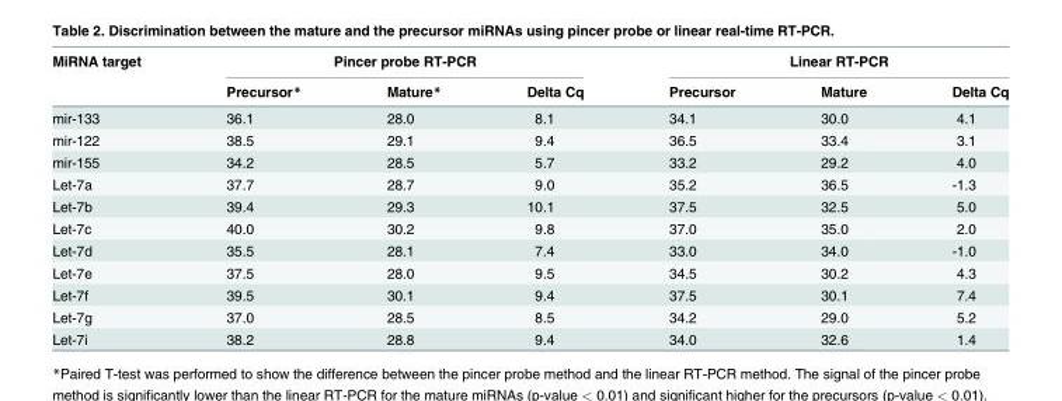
<table><thead><tr><td rowspan="2">MiRNA target</td><td colspan="3">Pincer probe RT-PCR</td><td colspan="3">Linear RT-PCR</td></tr><tr><td>Precursor*</td><td>Mature*</td><td>Delta Cq</td><td>Precursor</td><td>Mature</td><td>Delta Cq</td></tr></thead><tbody><tr><td>mir-133</td><td>36.1</td><td>28.0</td><td>8.1</td><td>34.1</td><td>30.0</td><td>4.1</td></tr><tr><td>mir-122</td><td>38.5</td><td>29.1</td><td>9.4</td><td>36.5</td><td>33.4</td><td>3.1</td></tr><tr><td>mir-155</td><td>34.2</td><td>28.5</td><td>5.7</td><td>33.2</td><td>29.2</td><td>4.0</td></tr><tr><td>Let-7a</td><td>37.7</td><td>28.7</td><td>9.0</td><td>35.2</td><td>36.5</td><td>-1.3</td></tr><tr><td>Let-7b</td><td>39.4</td><td>29.3</td><td>10.1</td><td>37.5</td><td>32.5</td><td>5.0</td></tr><tr><td>Let-7c</td><td>40.0</td><td>30.2</td><td>9.8</td><td>37.0</td><td>35.0</td><td>2.0</td></tr><tr><td>Let-7d</td><td>35.5</td><td>28.1</td><td>7.4</td><td>33.0</td><td>34.0</td><td>-1.0</td></tr><tr><td>Let-7e</td><td>37.5</td><td>28.0</td><td>9.5</td><td>34.5</td><td>30.2</td><td>4.3</td></tr><tr><td>Let-7f</td><td>39.5</td><td>30.1</td><td>9.4</td><td>37.5</td><td>30.1</td><td>7.4</td></tr><tr><td>Let-7g</td><td>37.0</td><td>28.5</td><td>8.5</td><td>34.2</td><td>29.0</td><td>5.2</td></tr><tr><td>Let-7i</td><td>38.2</td><td>28.8</td><td>9.4</td><td>34.0</td><td>32.6</td><td>1.4</td></tr></tbody></table>